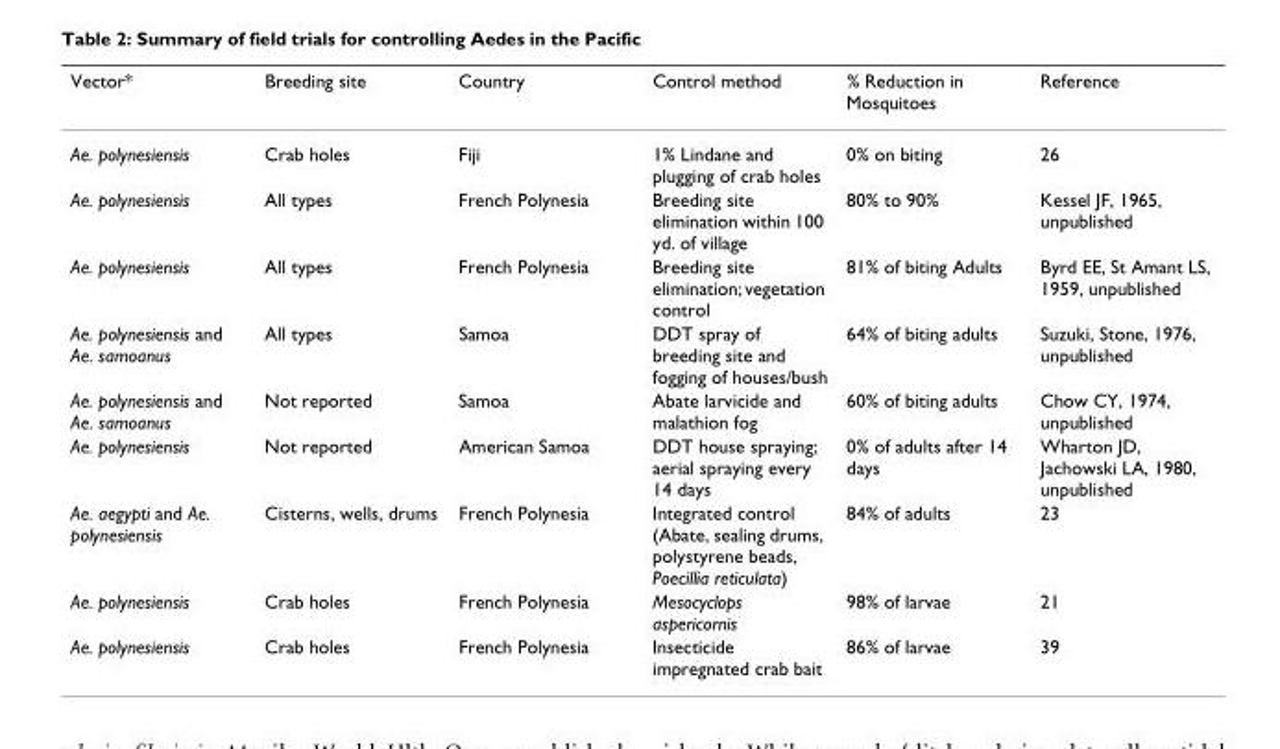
<table><thead><tr><td>Vector*</td><td>Breeding site</td><td>Country</td><td>Control method</td><td>% Reduction in Mosquitoes</td><td>Reference</td></tr></thead><tbody><tr><td>Ae. polynesiensis</td><td>Crab holes</td><td>Fiji</td><td>1% Lindane and plugging of crab holes</td><td>0% on biting</td><td>26</td></tr><tr><td>Ae. polynesiensis</td><td>All types</td><td>French Polynesia</td><td>Breeding site elimination within 100 yd. of village</td><td>80% to 90%</td><td>Kessel JF, 1965, unpublished</td></tr><tr><td>Ae. polynesiensis</td><td>All types</td><td>French Polynesia</td><td>Breeding site elimination; vegetation control</td><td>81% of biting Adults</td><td>Byrd EE, St Amant LS, 1959, unpublished</td></tr><tr><td>Ae. polynesiensis and Ae. samoanus</td><td>All types</td><td>Samoa</td><td>DDT spray of breeding site and fogging of houses/bush</td><td>64% of biting adults</td><td>Suzuki, Stone, 1976, unpublished</td></tr><tr><td>Ae. polynesiensis and Ae. samoanus</td><td>Not reported</td><td>Samoa</td><td>Abate larvicide and malathion fog</td><td>60% of biting adults</td><td>Chow CY, 1974, unpublished</td></tr><tr><td>Ae. polynesiensis</td><td>Not reported</td><td>American Samoa</td><td>DDT house spraying; aerial spraying every 14 days</td><td>0% of adults after 14 days</td><td>Wharton JD, Jachowski LA, 1980, unpublished</td></tr><tr><td>Ae. aegypti and Ae. polynesiensis</td><td>Cisterns, wells, drums</td><td>French Polynesia</td><td>Integrated control (Abate, sealing drums, polystyrene beads, Poecillia reticulata)</td><td>84% of adults</td><td>23</td></tr><tr><td>Ae. polynesiensis</td><td>Crab holes</td><td>French Polynesia</td><td>Mesocyclops aspericornis</td><td>98% of larvae</td><td>21</td></tr><tr><td>Ae. polynesiensis</td><td>Crab holes</td><td>French Polynesia</td><td>Insecticide impregnated crab bait</td><td>86% of larvae</td><td>39</td></tr></tbody></table>